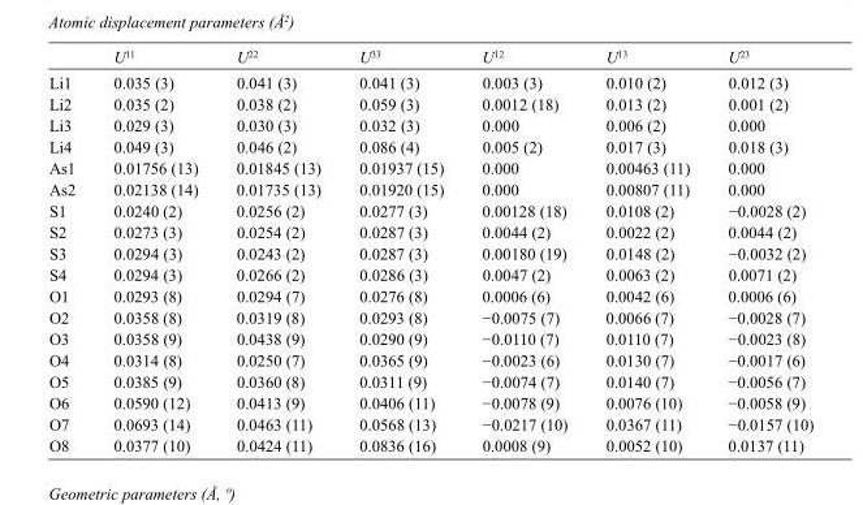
<table><thead><tr><td></td><td>U<sup>11</sup></td><td>U<sup>22</sup></td><td>U<sup>33</sup></td><td>U<sup>12</sup></td><td>U<sup>13</sup></td><td>U<sup>23</sup></td></tr></thead><tbody><tr><td>Li1</td><td>0.035 (3)</td><td>0.041 (3)</td><td>0.041 (3)</td><td>0.003 (3)</td><td>0.010 (2)</td><td>0.012 (3)</td></tr><tr><td>Li2</td><td>0.035 (2)</td><td>0.038 (2)</td><td>0.059 (3)</td><td>0.0012 (18)</td><td>0.013 (2)</td><td>0.001 (2)</td></tr><tr><td>Li3</td><td>0.029 (3)</td><td>0.030 (3)</td><td>0.032 (3)</td><td>0.000</td><td>0.006 (2)</td><td>0.000</td></tr><tr><td>Li4</td><td>0.049 (3)</td><td>0.046 (2)</td><td>0.086 (4)</td><td>0.005 (2)</td><td>0.017 (3)</td><td>0.018 (3)</td></tr><tr><td>As1</td><td>0.01756 (13)</td><td>0.01845 (13)</td><td>0.01937 (15)</td><td>0.000</td><td>0.00463 (11)</td><td>0.000</td></tr><tr><td>As2</td><td>0.02138 (14)</td><td>0.01735 (13)</td><td>0.01920 (15)</td><td>0.000</td><td>0.00807 (11)</td><td>0.000</td></tr><tr><td>S1</td><td>0.0240 (2)</td><td>0.0256 (2)</td><td>0.0277 (3)</td><td>0.00128 (18)</td><td>0.0108 (2)</td><td>−0.0028 (2)</td></tr><tr><td>S2</td><td>0.0273 (3)</td><td>0.0254 (2)</td><td>0.0287 (3)</td><td>0.0044 (2)</td><td>0.0022 (2)</td><td>0.0044 (2)</td></tr><tr><td>S3</td><td>0.0294 (3)</td><td>0.0243 (2)</td><td>0.0287 (3)</td><td>0.00180 (19)</td><td>0.0148 (2)</td><td>−0.0032 (2)</td></tr><tr><td>S4</td><td>0.0294 (3)</td><td>0.0266 (2)</td><td>0.0286 (3)</td><td>0.0047 (2)</td><td>0.0063 (2)</td><td>0.0071 (2)</td></tr><tr><td>O1</td><td>0.0293 (8)</td><td>0.0294 (7)</td><td>0.0276 (8)</td><td>0.0006 (6)</td><td>0.0042 (6)</td><td>0.0006 (6)</td></tr><tr><td>O2</td><td>0.0358 (8)</td><td>0.0319 (8)</td><td>0.0293 (8)</td><td>−0.0075 (7)</td><td>0.0066 (7)</td><td>−0.0028 (7)</td></tr><tr><td>O3</td><td>0.0358 (9)</td><td>0.0438 (9)</td><td>0.0290 (9)</td><td>−0.0110 (7)</td><td>0.0110 (7)</td><td>−0.0023 (8)</td></tr><tr><td>O4</td><td>0.0314 (8)</td><td>0.0250 (7)</td><td>0.0365 (9)</td><td>−0.0023 (6)</td><td>0.0130 (7)</td><td>−0.0017 (6)</td></tr><tr><td>O5</td><td>0.0385 (9)</td><td>0.0360 (8)</td><td>0.0311 (9)</td><td>−0.0074 (7)</td><td>0.0140 (7)</td><td>−0.0056 (7)</td></tr><tr><td>O6</td><td>0.0590 (12)</td><td>0.0413 (9)</td><td>0.0406 (11)</td><td>−0.0078 (9)</td><td>0.0076 (10)</td><td>−0.0058 (9)</td></tr><tr><td>O7</td><td>0.0693 (14)</td><td>0.0463 (11)</td><td>0.0568 (13)</td><td>−0.0217 (10)</td><td>0.0367 (11)</td><td>−0.0157 (10)</td></tr><tr><td>O8</td><td>0.0377 (10)</td><td>0.0424 (11)</td><td>0.0836 (16)</td><td>0.0008 (9)</td><td>0.0052 (10)</td><td>0.0137 (11)</td></tr></tbody></table>